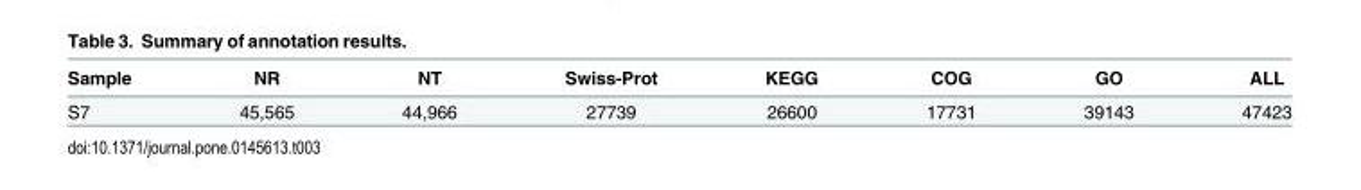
<table><thead><tr><td>Sample</td><td>NR</td><td>NT</td><td>Swiss-Prot</td><td>KEGG</td><td>COG</td><td>GO</td><td>ALL</td></tr></thead><tbody><tr><td>S7</td><td>45,565</td><td>44,966</td><td>27739</td><td>26600</td><td>17731</td><td>39143</td><td>47423</td></tr></tbody></table>